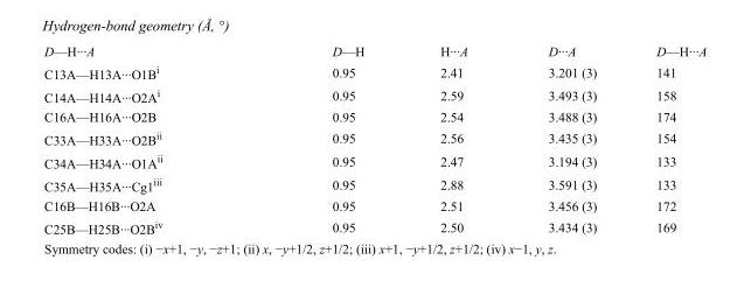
<table><tbody><tr><td>D—H···A</td><td>D—H</td><td>H···A</td><td>D···A</td><td>D—H···A</td></tr><tr><td>C13A—H13A···O1B<sup>i</sup></td><td>0.95</td><td>2.41</td><td>3.201 (3)</td><td>141</td></tr><tr><td>C14A—H14A···O2A<sup>i</sup></td><td>0.95</td><td>2.59</td><td>3.493 (3)</td><td>158</td></tr><tr><td>C16A—H16A···O2B</td><td>0.95</td><td>2.54</td><td>3.488 (3)</td><td>174</td></tr><tr><td>C33A—H33A···O2B<sup>ii</sup></td><td>0.95</td><td>2.56</td><td>3.435 (3)</td><td>154</td></tr><tr><td>C34A—H34A···O1A<sup>ii</sup></td><td>0.95</td><td>2.47</td><td>3.194 (3)</td><td>133</td></tr><tr><td>C35A—H35A···Cg1<sup>iii</sup></td><td>0.95</td><td>2.88</td><td>3.591 (3)</td><td>133</td></tr><tr><td>C16B—H16B···O2A</td><td>0.95</td><td>2.51</td><td>3.456 (3)</td><td>172</td></tr><tr><td>C25B—H25B···O2B<sup>iv</sup></td><td>0.95</td><td>2.50</td><td>3.434 (3)</td><td>169</td></tr></tbody></table>